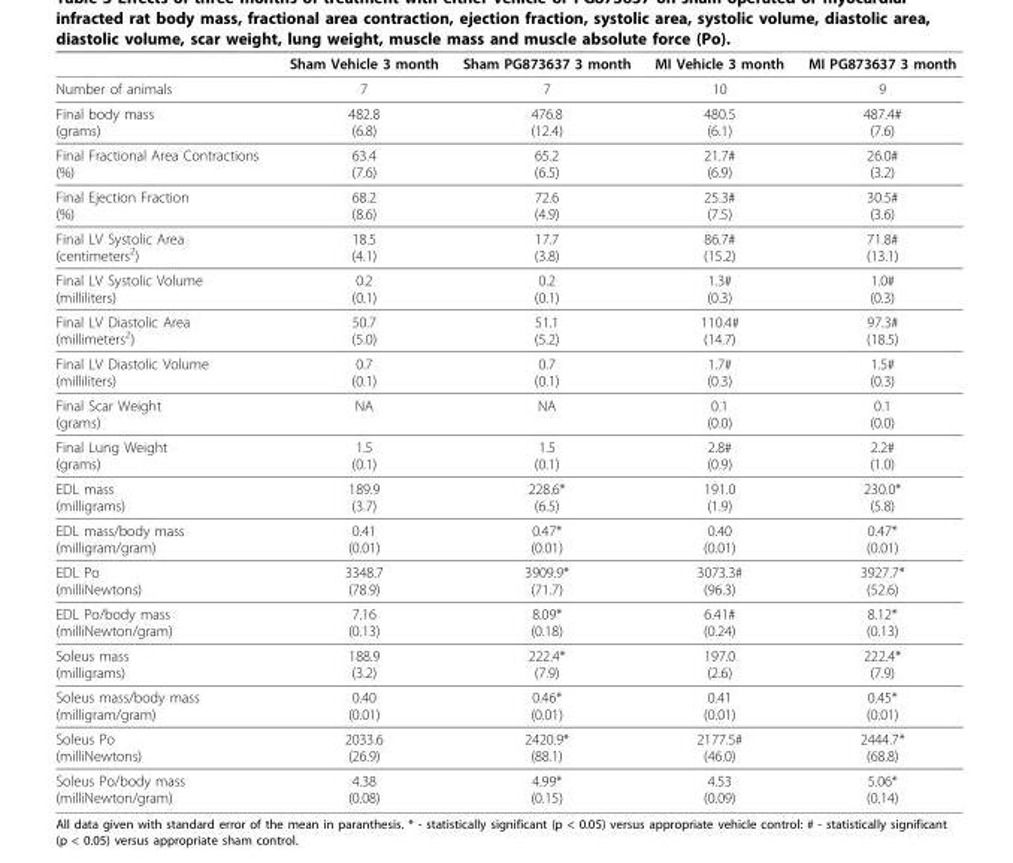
<table><thead><tr><td></td><td>Sham Vehicle 3 month</td><td>Sham PG873637 3 month</td><td>MI Vehicle 3 month</td><td>MI PG873637 3 month</td></tr></thead><tbody><tr><td>Number of animals</td><td>7</td><td>7</td><td>10</td><td>9</td></tr><tr><td>Final body mass (grams)</td><td>482.8 (6.8)</td><td>476.8 (12.4)</td><td>480.5 (6.1)</td><td>487.4# (7.6)</td></tr><tr><td>Final Fractional Area Contractions (%)</td><td>63.4 (7.6)</td><td>65.2 (6.5)</td><td>21.7# (6.9)</td><td>26.0# (3.2)</td></tr><tr><td>Final Ejection Fraction (%)</td><td>68.2 (8.6)</td><td>72.6 (4.9)</td><td>25.3# (7.5)</td><td>30.5# (3.6)</td></tr><tr><td>Final LV Systolic Area (centimeters<sup>2</sup>)</td><td>18.5 (4.1)</td><td>17.7 (3.8)</td><td>86.7# (15.2)</td><td>71.8# (13.1)</td></tr><tr><td>Final LV Systolic Volume (milliliters)</td><td>0.2 (0.1)</td><td>0.2 (0.1)</td><td>1.3# (0.3)</td><td>1.0# (0.3)</td></tr><tr><td>Final LV Diastolic Area (millimeters<sup>2</sup>)</td><td>50.7 (5.0)</td><td>51.1 (5.2)</td><td>110.4# (14.7)</td><td>97.3# (18.5)</td></tr><tr><td>Final LV Diastolic Volume (milliliters)</td><td>0.7 (0.1)</td><td>0.7 (0.1)</td><td>1.7# (0.3)</td><td>1.5# (0.3)</td></tr><tr><td>Final Scar Weight (grams)</td><td>NA</td><td>NA</td><td>0.1 (0.0)</td><td>0.1 (0.0)</td></tr><tr><td>Final Lung Weight (grams)</td><td>1.5 (0.1)</td><td>1.5 (0.1)</td><td>2.8# (0.9)</td><td>2.2# (1.0)</td></tr><tr><td>EDL mass (milligrams)</td><td>189.9 (3.7)</td><td>228.6* (6.5)</td><td>191.0 (1.9)</td><td>230.0* (5.8)</td></tr><tr><td>EDL mass/body mass (milligram/gram)</td><td>0.41 (0.01)</td><td>0.47* (0.01)</td><td>0.40 (0.01)</td><td>0.47* (0.01)</td></tr><tr><td>EDL Po (milliNewtons)</td><td>3348.7 (78.9)</td><td>3909.9* (71.7)</td><td>3073.3# (96.3)</td><td>3927.7* (52.6)</td></tr><tr><td>EDL Po/body mass (milliNewton/gram)</td><td>7.16 (0.13)</td><td>8.09* (0.18)</td><td>6.41# (0.24)</td><td>8.12* (0.13)</td></tr><tr><td>Soleus mass (milligrams)</td><td>188.9 (3.2)</td><td>222.4* (7.9)</td><td>197.0 (2.6)</td><td>222.4* (7.9)</td></tr><tr><td>Soleus mass/body mass (milligram/gram)</td><td>0.40 (0.01)</td><td>0.46* (0.01)</td><td>0.41 (0.01)</td><td>0.45* (0.01)</td></tr><tr><td>Soleus Po (milliNewtons)</td><td>2033.6 (26.9)</td><td>2420.9* (88.1)</td><td>2177.5# (46.0)</td><td>2444.7* (68.8)</td></tr><tr><td>Soleus Po/body mass (milliNewton/gram)</td><td>4.38 (0.08)</td><td>4.99* (0.15)</td><td>4.53 (0.09)</td><td>5.06* (0.14)</td></tr></tbody></table>